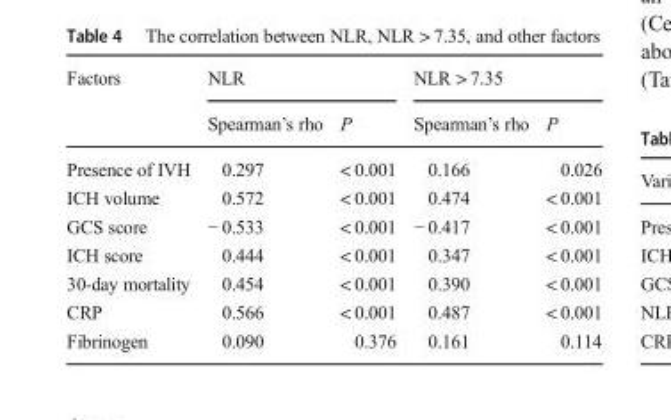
<table><thead><tr><td rowspan="2">Factors</td><td colspan="2">NLR</td><td colspan="2">NLR &gt; 7.35</td></tr><tr><td>Spearman’s rho</td><td>P</td><td>Spearman’s rho</td><td>P</td></tr></thead><tbody><tr><td>Presence of IVH</td><td>0.297</td><td>&lt; 0.001</td><td>0.166</td><td>0.026</td></tr><tr><td>ICH volume</td><td>0.572</td><td>&lt; 0.001</td><td>0.474</td><td>&lt; 0.001</td></tr><tr><td>GCS score</td><td>− 0.533</td><td>&lt; 0.001</td><td>− 0.417</td><td>&lt; 0.001</td></tr><tr><td>ICH score</td><td>0.444</td><td>&lt; 0.001</td><td>0.347</td><td>&lt; 0.001</td></tr><tr><td>30-day mortality</td><td>0.454</td><td>&lt; 0.001</td><td>0.390</td><td>&lt; 0.001</td></tr><tr><td>CRP</td><td>0.566</td><td>&lt; 0.001</td><td>0.487</td><td>&lt; 0.001</td></tr><tr><td>Fibrinogen</td><td>0.090</td><td>0.376</td><td>0.161</td><td>0.114</td></tr></tbody></table>